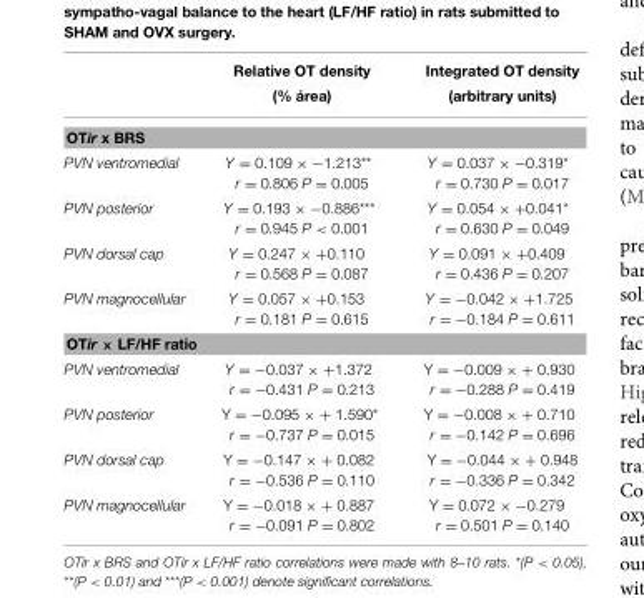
<table><thead><tr><td></td><td>Relative OT density (% área)</td><td>Integrated OT density (arbitrary units)</td></tr></thead><tbody><tr><td colspan="3">OTir x BRS</td></tr><tr><td>PVN ventromedial</td><td>Y = 0.109 × −1.213** r = 0.806 P = 0.005</td><td>Y = 0.037 × −0.319* r = 0.730 P = 0.017</td></tr><tr><td>PVN posterior</td><td>Y = 0.193 × −0.886*** r = 0.945 P &lt; 0.001</td><td>Y = 0.054 × +0.041* r = 0.630 P = 0.049</td></tr><tr><td>PVN dorsal cap</td><td>Y = 0.247 × +0.110 r = 0.568 P = 0.087</td><td>Y = 0.091 × +0.409 r = 0.436 P = 0.207</td></tr><tr><td>PVN magnocellular</td><td>Y = 0.057 × +0.153 r = 0.181 P = 0.615</td><td>Y = −0.042 × +1.725 r = −0.184 P = 0.611</td></tr><tr><td colspan="3">OTir × LF/HF ratio</td></tr><tr><td>PVN ventromedial</td><td>Y = −0.037 × +1.372 r = −0.431 P = 0.213</td><td>Y = −0.009 × + 0.930 r = −0.288 P = 0.419</td></tr><tr><td>PVN posterior</td><td>Y = −0.095 × + 1.590* r = −0.737 P = 0.015</td><td>Y = −0.008 × + 0.710 r = −0.142 P = 0.696</td></tr><tr><td>PVN dorsal cap</td><td>Y = −0.147 × + 0.082 r = −0.536 P = 0.110</td><td>Y = −0.044 × + 0.948 r = −0.336 P = 0.342</td></tr><tr><td>PVN magnocellular</td><td>Y = −0.018 × + 0.887 r = −0.091 P = 0.802</td><td>Y = 0.072 × −0.279 r = 0.501 P = 0.140</td></tr></tbody></table>